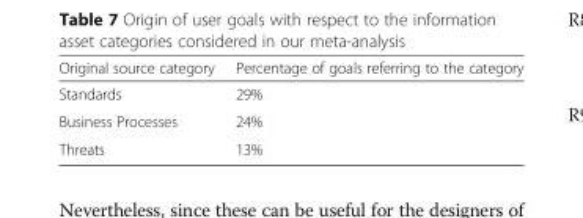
<table><thead><tr><td>Original source category</td><td>Percentage of goals referring to the category</td></tr></thead><tbody><tr><td>Standards</td><td>29%</td></tr><tr><td>Business Processes</td><td>24%</td></tr><tr><td>Threats</td><td>13%</td></tr></tbody></table>